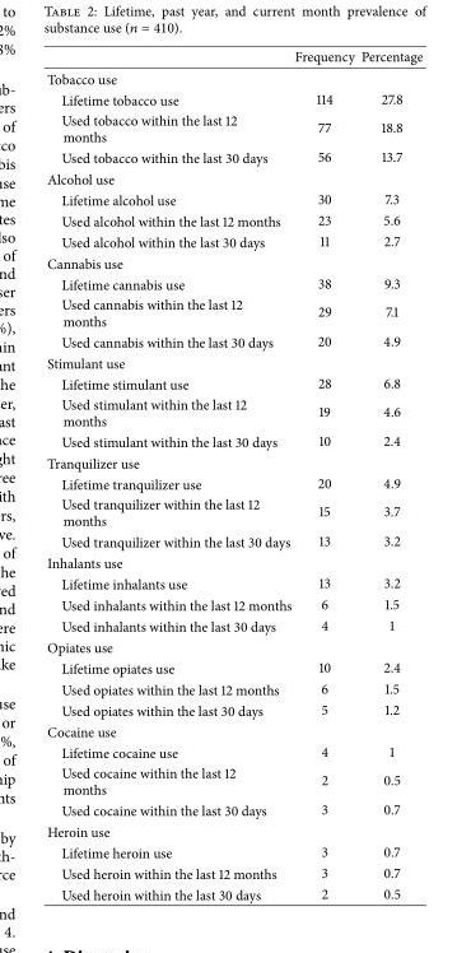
<table><thead><tr><td></td><td>Frequency</td><td>Percentage</td></tr></thead><tbody><tr><td colspan="3">Tobacco use</td></tr><tr><td>Lifetime tobacco use</td><td>114</td><td>27.8</td></tr><tr><td>Used tobacco within the last 12 months</td><td>77</td><td>18.8</td></tr><tr><td>Used tobacco within the last 30 days</td><td>56</td><td>13.7</td></tr><tr><td colspan="3">Alcohol use</td></tr><tr><td>Lifetime alcohol use</td><td>30</td><td>7.3</td></tr><tr><td>Used alcohol within the last 12 months</td><td>23</td><td>5.6</td></tr><tr><td>Used alcohol within the last 30 days</td><td>11</td><td>2.7</td></tr><tr><td colspan="3">Cannabis use</td></tr><tr><td>Lifetime cannabis use</td><td>38</td><td>9.3</td></tr><tr><td>Used cannabis within the last 12 months</td><td>29</td><td>7.1</td></tr><tr><td>Used cannabis within the last 30 days</td><td>20</td><td>4.9</td></tr><tr><td colspan="3">Stimulant use</td></tr><tr><td>Lifetime stimulant use</td><td>28</td><td>6.8</td></tr><tr><td>Used stimulant within the last 12 months</td><td>19</td><td>4.6</td></tr><tr><td>Used stimulant within the last 30 days</td><td>10</td><td>2.4</td></tr><tr><td colspan="3">Tranquilizer use</td></tr><tr><td>Lifetime tranquilizer use</td><td>20</td><td>4.9</td></tr><tr><td>Used tranquilizer within the last 12 months</td><td>15</td><td>3.7</td></tr><tr><td>Used tranquilizer within the last 30 days</td><td>13</td><td>3.2</td></tr><tr><td colspan="3">Inhalants use</td></tr><tr><td>Lifetime inhalants use</td><td>13</td><td>3.2</td></tr><tr><td>Used inhalants within the last 12 months</td><td>6</td><td>1.5</td></tr><tr><td>Used inhalants within the last 30 days</td><td>4</td><td>1</td></tr><tr><td colspan="3">Opiates use</td></tr><tr><td>Lifetime opiates use</td><td>10</td><td>2.4</td></tr><tr><td>Used opiates within the last 12 months</td><td>6</td><td>1.5</td></tr><tr><td>Used opiates within the last 30 days</td><td>5</td><td>1.2</td></tr><tr><td colspan="3">Cocaine use</td></tr><tr><td>Lifetime cocaine use</td><td>4</td><td>1</td></tr><tr><td>Used cocaine within the last 12 months</td><td>2</td><td>0.5</td></tr><tr><td>Used cocaine within the last 30 days</td><td>3</td><td>0.7</td></tr><tr><td colspan="3">Heroin use</td></tr><tr><td>Lifetime heroin use</td><td>3</td><td>0.7</td></tr><tr><td>Used heroin within the last 12 months</td><td>3</td><td>0.7</td></tr><tr><td>Used heroin within the last 30 days</td><td>2</td><td>0.5</td></tr></tbody></table>